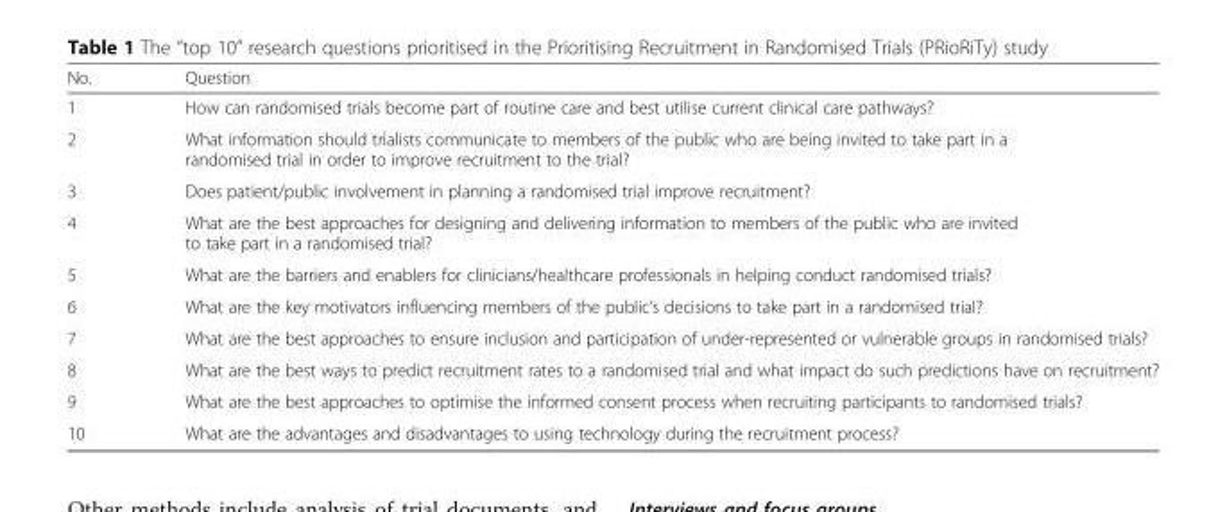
<table><thead><tr><td>No.</td><td>Question</td></tr></thead><tbody><tr><td>1</td><td>How can randomised trials become part of routine care and best utilise current clinical care pathways?</td></tr><tr><td>2</td><td>What information should trialists communicate to members of the public who are being invited to take part in a randomised trial in order to improve recruitment to the trial?</td></tr><tr><td>3</td><td>Does patient/public involvement in planning a randomised trial improve recruitment?</td></tr><tr><td>4</td><td>What are the best approaches for designing and delivering information to members of the public who are invited to take part in a randomised trial?</td></tr><tr><td>5</td><td>What are the barriers and enablers for clinicians/healthcare professionals in helping conduct randomised trials?</td></tr><tr><td>6</td><td>What are the key motivators influencing members of the public’s decisions to take part in a randomised trial?</td></tr><tr><td>7</td><td>What are the best approaches to ensure inclusion and participation of under-represented or vulnerable groups in randomised trials?</td></tr><tr><td>8</td><td>What are the best ways to predict recruitment rates to a randomised trial and what impact do such predictions have on recruitment?</td></tr><tr><td>9</td><td>What are the best approaches to optimise the informed consent process when recruiting participants to randomised trials?</td></tr><tr><td>10</td><td>What are the advantages and disadvantages to using technology during the recruitment process?</td></tr></tbody></table>